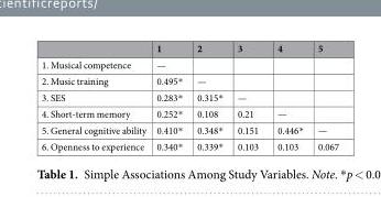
<table><thead><tr><td></td><td>1</td><td>2</td><td>3</td><td>4</td><td>5</td></tr></thead><tbody><tr><td>1. Musical competence</td><td>—</td><td></td><td></td><td></td><td></td></tr><tr><td>2. Music training</td><td>0.495*</td><td>—</td><td></td><td></td><td></td></tr><tr><td>3. SES</td><td>0.283*</td><td>0.315*</td><td>—</td><td></td><td></td></tr><tr><td>4. Short-term memory</td><td>0.252*</td><td>0.108</td><td>0.21</td><td>—</td><td></td></tr><tr><td>5. General cognitive ability</td><td>0.410*</td><td>0.348*</td><td>0.151</td><td>0.446*</td><td>—</td></tr><tr><td>6. Openness to experience</td><td>0.340*</td><td>0.339*</td><td>0.103</td><td>0.103</td><td>0.067</td></tr></tbody></table>